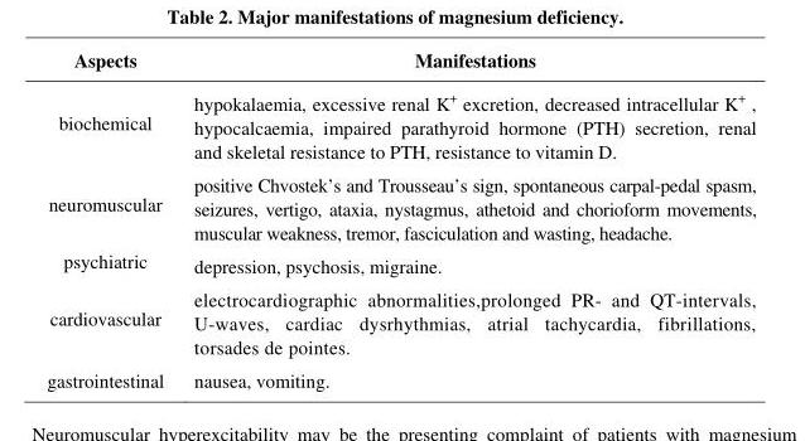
<table><thead><tr><td>Aspects</td><td>Manifestations</td></tr></thead><tbody><tr><td>biochemical</td><td>hypokalaemia, excessive renal K<sup>+</sup> excretion, decreased intracellular K<sup>+</sup> , hypocalcaemia, impaired parathyroid hormone (PTH) secretion, renal and skeletal resistance to PTH, resistance to vitamin D.</td></tr><tr><td>neuromuscular</td><td>positive Chvostek’s and Trousseau’s sign, spontaneous carpal-pedal spasm, seizures, vertigo, ataxia, nystagmus, athetoid and chorioform movements, muscular weakness, tremor, fasciculation and wasting, headache.</td></tr><tr><td>psychiatric</td><td>depression, psychosis, migraine.</td></tr><tr><td>cardiovascular</td><td>electrocardiographic abnormalities,prolonged PR- and QT-intervals, U-waves, cardiac dysrhythmias, atrial tachycardia, fibrillations, torsades de pointes.</td></tr><tr><td>gastrointestinal</td><td>nausea, vomiting.</td></tr></tbody></table>